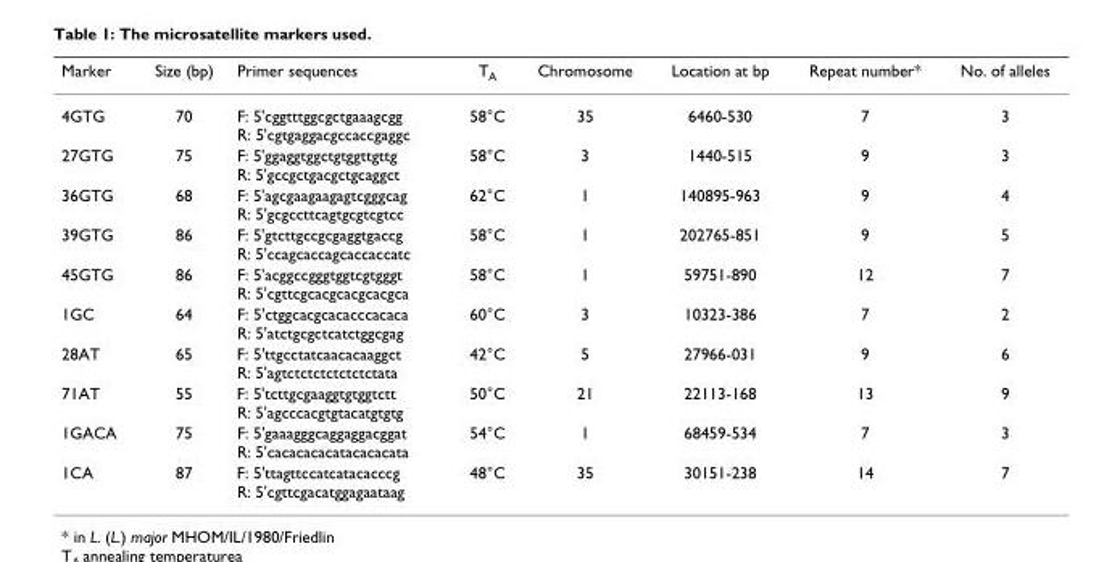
<table><thead><tr><td>Marker</td><td>Size (bp)</td><td>Primer sequences</td><td>T<sub>A</sub></td><td>Chromosome</td><td>Location at bp</td><td>Repeat number*</td><td>No. of alleles</td></tr></thead><tbody><tr><td>4GTG</td><td>70</td><td>F: 5&#x27;cggtttggcgctgaaagcgg R: 5&#x27;cgtgaggacgccaccgaggc</td><td>58°C</td><td>35</td><td>6460-530</td><td>7</td><td>3</td></tr><tr><td>27GTG</td><td>75</td><td>F: 5&#x27;ggaggtggctgtggttgttg R: 5&#x27;gccgctgacgctgcaggct</td><td>58°C</td><td>3</td><td>1440-515</td><td>9</td><td>3</td></tr><tr><td>36GTG</td><td>68</td><td>F: 5&#x27;agcgaagaagagtcgggcag R: 5&#x27;gcgccttcagtgcgtcgtcc</td><td>62°C</td><td>1</td><td>140895-963</td><td>9</td><td>4</td></tr><tr><td>39GTG</td><td>86</td><td>F: 5&#x27;gtcttgccgcgaggtgaccg R: 5&#x27;ccagcaccagcaccaccatc</td><td>58°C</td><td>1</td><td>202765-851</td><td>9</td><td>5</td></tr><tr><td>45GTG</td><td>86</td><td>F: 5&#x27;acggccgggtggtcgtgggt R: 5&#x27;cgttcgcacgcacgcacgca</td><td>58°C</td><td>1</td><td>59751-890</td><td>12</td><td>7</td></tr><tr><td>1GC</td><td>64</td><td>F: 5&#x27;ctggcacgcacacccacaca R: 5&#x27;atctgcgctcatctggcgag</td><td>60°C</td><td>3</td><td>10323-386</td><td>7</td><td>2</td></tr><tr><td>28AT</td><td>65</td><td>F: 5&#x27;ttgcctatcaacacaaggct R: 5&#x27;agtctctctctctctctata</td><td>42°C</td><td>5</td><td>27966-031</td><td>9</td><td>6</td></tr><tr><td>71AT</td><td>55</td><td>F: 5&#x27;tcttgcgaaggtgtggtctt R: 5&#x27;agcccacgtgtacatgtgtg</td><td>50°C</td><td>21</td><td>22113-168</td><td>13</td><td>9</td></tr><tr><td>1GACA</td><td>75</td><td>F: 5&#x27;gaaagggcaggaggacggat R: 5&#x27;cacacacacatacacacata</td><td>54°C</td><td>1</td><td>68459-534</td><td>7</td><td>3</td></tr><tr><td>1CA</td><td>87</td><td>F: 5&#x27;ttagttccatcatacacccg R: 5&#x27;cgttcgacatggagaataag</td><td>48°C</td><td>35</td><td>30151-238</td><td>14</td><td>7</td></tr></tbody></table>